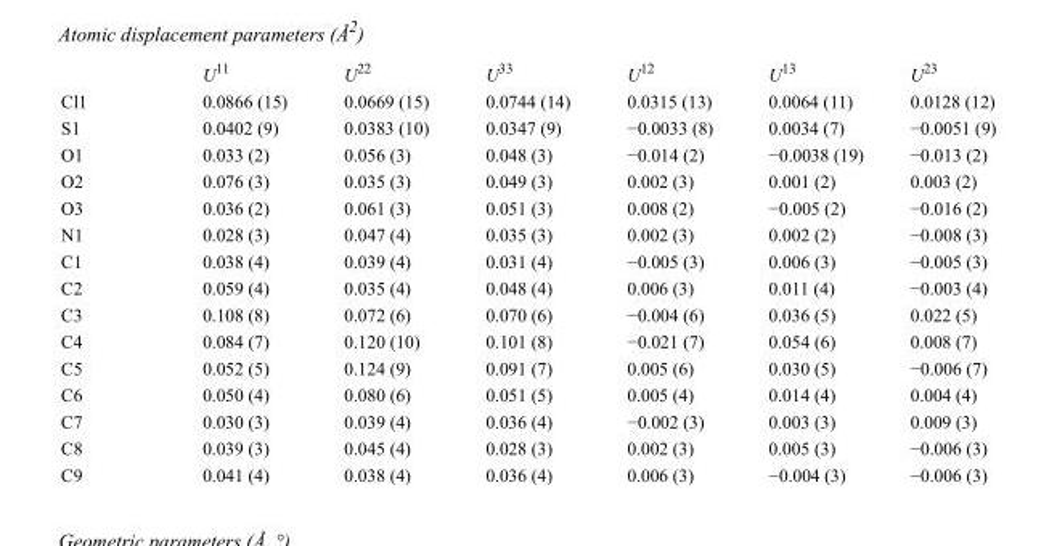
<table><thead><tr><td></td><td>U<sup>11</sup></td><td>U<sup>22</sup></td><td>U<sup>33</sup></td><td>U<sup>12</sup></td><td>U<sup>13</sup></td><td>U<sup>23</sup></td></tr></thead><tbody><tr><td>Cl1</td><td>0.0866 (15)</td><td>0.0669 (15)</td><td>0.0744 (14)</td><td>0.0315 (13)</td><td>0.0064 (11)</td><td>0.0128 (12)</td></tr><tr><td>S1</td><td>0.0402 (9)</td><td>0.0383 (10)</td><td>0.0347 (9)</td><td>−0.0033 (8)</td><td>0.0034 (7)</td><td>−0.0051 (9)</td></tr><tr><td>O1</td><td>0.033 (2)</td><td>0.056 (3)</td><td>0.048 (3)</td><td>−0.014 (2)</td><td>−0.0038 (19)</td><td>−0.013 (2)</td></tr><tr><td>O2</td><td>0.076 (3)</td><td>0.035 (3)</td><td>0.049 (3)</td><td>0.002 (3)</td><td>0.001 (2)</td><td>0.003 (2)</td></tr><tr><td>O3</td><td>0.036 (2)</td><td>0.061 (3)</td><td>0.051 (3)</td><td>0.008 (2)</td><td>−0.005 (2)</td><td>−0.016 (2)</td></tr><tr><td>N1</td><td>0.028 (3)</td><td>0.047 (4)</td><td>0.035 (3)</td><td>0.002 (3)</td><td>0.002 (2)</td><td>−0.008 (3)</td></tr><tr><td>C1</td><td>0.038 (4)</td><td>0.039 (4)</td><td>0.031 (4)</td><td>−0.005 (3)</td><td>0.006 (3)</td><td>−0.005 (3)</td></tr><tr><td>C2</td><td>0.059 (4)</td><td>0.035 (4)</td><td>0.048 (4)</td><td>0.006 (3)</td><td>0.011 (4)</td><td>−0.003 (4)</td></tr><tr><td>C3</td><td>0.108 (8)</td><td>0.072 (6)</td><td>0.070 (6)</td><td>−0.004 (6)</td><td>0.036 (5)</td><td>0.022 (5)</td></tr><tr><td>C4</td><td>0.084 (7)</td><td>0.120 (10)</td><td>0.101 (8)</td><td>−0.021 (7)</td><td>0.054 (6)</td><td>0.008 (7)</td></tr><tr><td>C5</td><td>0.052 (5)</td><td>0.124 (9)</td><td>0.091 (7)</td><td>0.005 (6)</td><td>0.030 (5)</td><td>−0.006 (7)</td></tr><tr><td>C6</td><td>0.050 (4)</td><td>0.080 (6)</td><td>0.051 (5)</td><td>0.005 (4)</td><td>0.014 (4)</td><td>0.004 (4)</td></tr><tr><td>C7</td><td>0.030 (3)</td><td>0.039 (4)</td><td>0.036 (4)</td><td>−0.002 (3)</td><td>0.003 (3)</td><td>0.009 (3)</td></tr><tr><td>C8</td><td>0.039 (3)</td><td>0.045 (4)</td><td>0.028 (3)</td><td>0.002 (3)</td><td>0.005 (3)</td><td>−0.006 (3)</td></tr><tr><td>C9</td><td>0.041 (4)</td><td>0.038 (4)</td><td>0.036 (4)</td><td>0.006 (3)</td><td>−0.004 (3)</td><td>−0.006 (3)</td></tr></tbody></table>